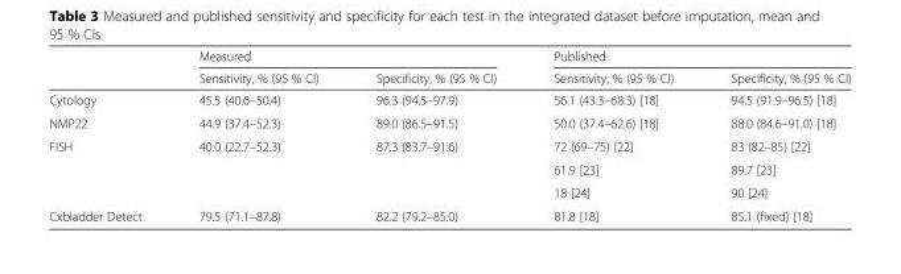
<table><thead><tr><td rowspan="2"></td><td colspan="2">Measured</td><td colspan="2">Published</td></tr><tr><td>Sensitivity, % (95 % CI)</td><td>Specificity, % (95 % CI)</td><td>Sensitivity, % (95 % CI)</td><td>Specificity, % (95 % CI)</td></tr></thead><tbody><tr><td>Cytology</td><td>45.5 (40.6–50.4)</td><td>96.3 (94.5–97.9)</td><td>56.1 (43.3–68.3) [18]</td><td>94.5 (91.9–96.5) [18]</td></tr><tr><td>NMP22</td><td>44.9 (37.4–52.3)</td><td>89.0 (86.5–91.5)</td><td>50.0 (37.4–62.6) [18]</td><td>88.0 (84.6–91.0) [18]</td></tr><tr><td rowspan="3">FISH</td><td>40.0 (22.7–52.3)</td><td>87.3 (83.7–91.6)</td><td>72 (69–75) [22]</td><td>83 (82–85) [22]</td></tr><tr><td></td><td></td><td>61.9 [23]</td><td>89.7 [23]</td></tr><tr><td></td><td></td><td>18 [24]</td><td>90 [24]</td></tr><tr><td>Cxbladder Detect</td><td>79.5 (71.1–87.8)</td><td>82.2 (79.2–85.0)</td><td>81.8 [18]</td><td>85.1 (fixed) [18]</td></tr></tbody></table>